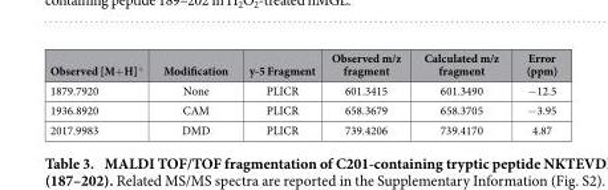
<table><thead><tr><td>Observed [M+ H]<sup>+</sup></td><td>Modification</td><td>y-5 Fragment</td><td>Observed m/z fragment</td><td>Calculated m/z fragment</td><td>Error (ppm)</td></tr></thead><tbody><tr><td>1879.7920</td><td>None</td><td>PLICR</td><td>601.3415</td><td>601.3490</td><td>− 12.5</td></tr><tr><td>1936.8920</td><td>CAM</td><td>PLICR</td><td>658.3679</td><td>658.3705</td><td>− 3.95</td></tr><tr><td>2017.9983</td><td>DMD</td><td>PLICR</td><td>739.4206</td><td>739.4170</td><td>4.87</td></tr></tbody></table>